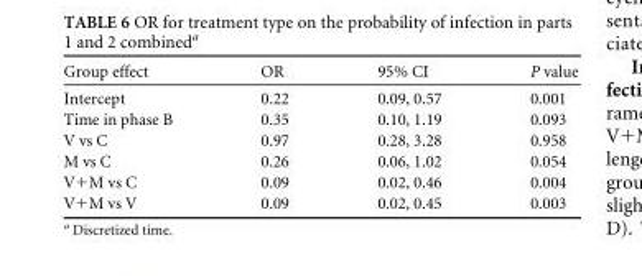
<table><thead><tr><td>Group effect</td><td>OR</td><td>95% CI</td><td>P value</td></tr></thead><tbody><tr><td>Intercept</td><td>0.22</td><td>0.09, 0.57</td><td>0.001</td></tr><tr><td>Time in phase B</td><td>0.35</td><td>0.10, 1.19</td><td>0.093</td></tr><tr><td>V vs C</td><td>0.97</td><td>0.28, 3.28</td><td>0.958</td></tr><tr><td>M vs C</td><td>0.26</td><td>0.06, 1.02</td><td>0.054</td></tr><tr><td>V+M vs C</td><td>0.09</td><td>0.02, 0.46</td><td>0.004</td></tr><tr><td>V+M vs V</td><td>0.09</td><td>0.02, 0.45</td><td>0.003</td></tr></tbody></table>